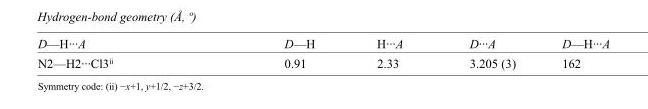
<table><tbody><tr><td>D—H···A</td><td>D—H</td><td>H···A</td><td>D···A</td><td>D—H···A</td></tr><tr><td>N2—H2···Cl3<sup>ii</sup></td><td>0.91</td><td>2.33</td><td>3.205 (3)</td><td>162</td></tr></tbody></table>